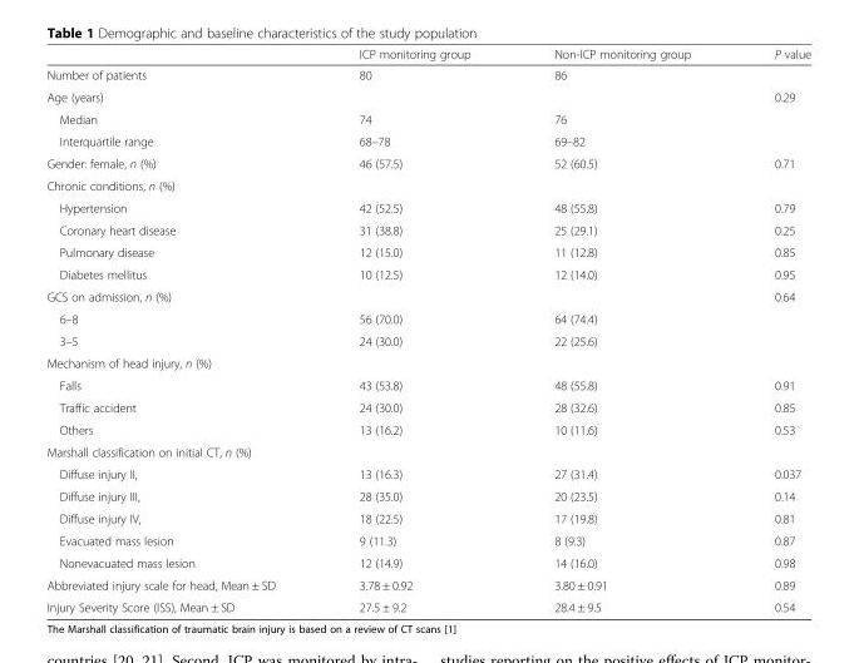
<table><thead><tr><td></td><td>ICP monitoring group</td><td>Non-ICP monitoring group</td><td>P value</td></tr></thead><tbody><tr><td>Number of patients</td><td>80</td><td>86</td><td></td></tr><tr><td>Age (years)</td><td></td><td></td><td>0.29</td></tr><tr><td>Median</td><td>74</td><td>76</td><td></td></tr><tr><td>Interquartile range</td><td>68–78</td><td>69–82</td><td></td></tr><tr><td>Gender: female, n (%)</td><td>46 (57.5)</td><td>52 (60.5)</td><td>0.71</td></tr><tr><td colspan="4">Chronic conditions, n (%)</td></tr><tr><td>Hypertension</td><td>42 (52.5)</td><td>48 (55.8)</td><td>0.79</td></tr><tr><td>Coronary heart disease</td><td>31 (38.8)</td><td>25 (29.1)</td><td>0.25</td></tr><tr><td>Pulmonary disease</td><td>12 (15.0)</td><td>11 (12.8)</td><td>0.85</td></tr><tr><td>Diabetes mellitus</td><td>10 (12.5)</td><td>12 (14.0)</td><td>0.95</td></tr><tr><td>GCS on admission, n (%)</td><td></td><td></td><td>0.64</td></tr><tr><td>6–8</td><td>56 (70.0)</td><td>64 (74.4)</td><td></td></tr><tr><td>3–5</td><td>24 (30.0)</td><td>22 (25.6)</td><td></td></tr><tr><td colspan="4">Mechanism of head injury, n (%)</td></tr><tr><td>Falls</td><td>43 (53.8)</td><td>48 (55.8)</td><td>0.91</td></tr><tr><td>Traffic accident</td><td>24 (30.0)</td><td>28 (32.6)</td><td>0.85</td></tr><tr><td>Others</td><td>13 (16.2)</td><td>10 (11.6)</td><td>0.53</td></tr><tr><td colspan="4">Marshall classification on initial CT, n (%)</td></tr><tr><td>Diffuse injury II,</td><td>13 (16.3)</td><td>27 (31.4)</td><td>0.037</td></tr><tr><td>Diffuse injury III,</td><td>28 (35.0)</td><td>20 (23.5)</td><td>0.14</td></tr><tr><td>Diffuse injury IV,</td><td>18 (22.5)</td><td>17 (19.8)</td><td>0.81</td></tr><tr><td>Evacuated mass lesion</td><td>9 (11.3)</td><td>8 (9.3)</td><td>0.87</td></tr><tr><td>Nonevacuated mass lesion</td><td>12 (14.9)</td><td>14 (16.0)</td><td>0.98</td></tr><tr><td>Abbreviated injury scale for head, Mean ± SD</td><td>3.78 ± 0.92</td><td>3.80 ± 0.91</td><td>0.89</td></tr><tr><td>Injury Severity Score (ISS), Mean ± SD</td><td>27.5 ± 9.2</td><td>28.4 ± 9.5</td><td>0.54</td></tr></tbody></table>